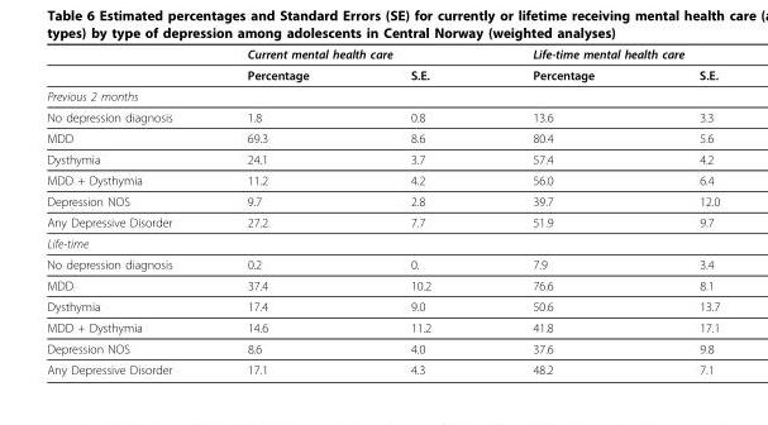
<table><thead><tr><td rowspan="2"></td><td colspan="2">Current mental health care</td><td colspan="2">Life-time mental health care</td></tr><tr><td>Percentage</td><td>S.E.</td><td>Percentage</td><td>S.E.</td></tr></thead><tbody><tr><td colspan="5">Previous 2 months</td></tr><tr><td>No depression diagnosis</td><td>1.8</td><td>0.8</td><td>13.6</td><td>3.3</td></tr><tr><td>MDD</td><td>69.3</td><td>8.6</td><td>80.4</td><td>5.6</td></tr><tr><td>Dysthymia</td><td>24.1</td><td>3.7</td><td>57.4</td><td>4.2</td></tr><tr><td>MDD + Dysthymia</td><td>11.2</td><td>4.2</td><td>56.0</td><td>6.4</td></tr><tr><td>Depression NOS</td><td>9.7</td><td>2.8</td><td>39.7</td><td>12.0</td></tr><tr><td>Any Depressive Disorder</td><td>27.2</td><td>7.7</td><td>51.9</td><td>9.7</td></tr><tr><td colspan="5">Life-time</td></tr><tr><td>No depression diagnosis</td><td>0.2</td><td>0.</td><td>7.9</td><td>3.4</td></tr><tr><td>MDD</td><td>37.4</td><td>10.2</td><td>76.6</td><td>8.1</td></tr><tr><td>Dysthymia</td><td>17.4</td><td>9.0</td><td>50.6</td><td>13.7</td></tr><tr><td>MDD + Dysthymia</td><td>14.6</td><td>11.2</td><td>41.8</td><td>17.1</td></tr><tr><td>Depression NOS</td><td>8.6</td><td>4.0</td><td>37.6</td><td>9.8</td></tr><tr><td>Any Depressive Disorder</td><td>17.1</td><td>4.3</td><td>48.2</td><td>7.1</td></tr></tbody></table>